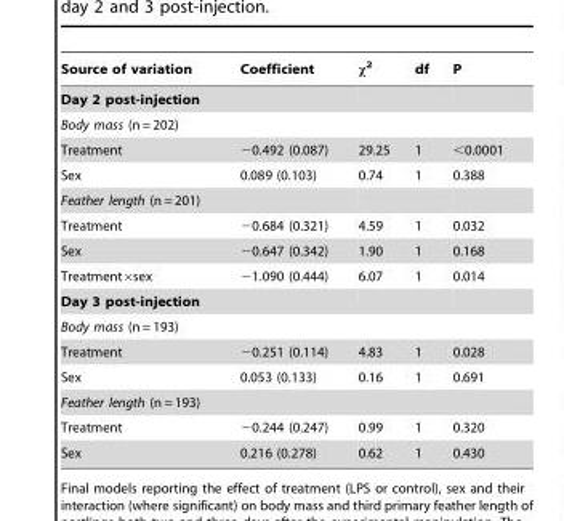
<table><thead><tr><td>Source of variation</td><td>Coefficient</td><td>χ<sup>2</sup></td><td>df</td><td>P</td></tr></thead><tbody><tr><td colspan="5">Day 2 post-injection</td></tr><tr><td colspan="5">Body mass (n = 202)</td></tr><tr><td>Treatment</td><td>−0.492 (0.087)</td><td>29.25</td><td>1</td><td>&lt;0.0001</td></tr><tr><td>Sex</td><td>0.089 (0.103)</td><td>0.74</td><td>1</td><td>0.388</td></tr><tr><td colspan="5">Feather length (n = 201)</td></tr><tr><td>Treatment</td><td>−0.684 (0.321)</td><td>4.59</td><td>1</td><td>0.032</td></tr><tr><td>Sex</td><td>−0.647 (0.342)</td><td>1.90</td><td>1</td><td>0.168</td></tr><tr><td>Treatment×sex</td><td>−1.090 (0.444)</td><td>6.07</td><td>1</td><td>0.014</td></tr><tr><td colspan="5">Day 3 post-injection</td></tr><tr><td colspan="5">Body mass (n = 193)</td></tr><tr><td>Treatment</td><td>−0.251 (0.114)</td><td>4.83</td><td>1</td><td>0.028</td></tr><tr><td>Sex</td><td>0.053 (0.133)</td><td>0.16</td><td>1</td><td>0.691</td></tr><tr><td colspan="5">Feather length (n = 193)</td></tr><tr><td>Treatment</td><td>−0.244 (0.247)</td><td>0.99</td><td>1</td><td>0.320</td></tr><tr><td>Sex</td><td>0.216 (0.278)</td><td>0.62</td><td>1</td><td>0.430</td></tr></tbody></table>